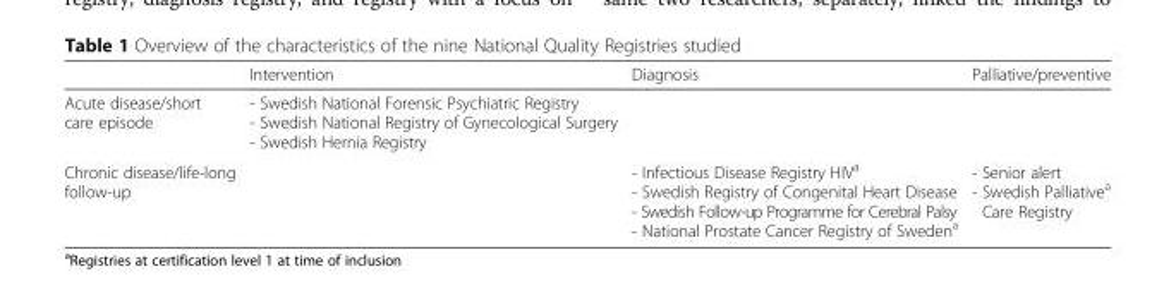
<table><thead><tr><td></td><td>Intervention</td><td>Diagnosis</td><td>Palliative/preventive</td></tr></thead><tbody><tr><td>Acute disease/short care episode</td><td>- Swedish National Forensic Psychiatric Registry - Swedish National Registry of Gynecological Surgery - Swedish Hernia Registry</td><td></td><td></td></tr><tr><td>Chronic disease/life-long follow-up</td><td></td><td>- Infectious Disease Registry HIV<sup>a</sup> - Swedish Registry of Congenital Heart Disease - Swedish Follow-up Programme for Cerebral Palsy - National Prostate Cancer Registry of Sweden<sup>a</sup></td><td>- Senior alert - Swedish Palliative<sup>a</sup> Care Registry</td></tr></tbody></table>